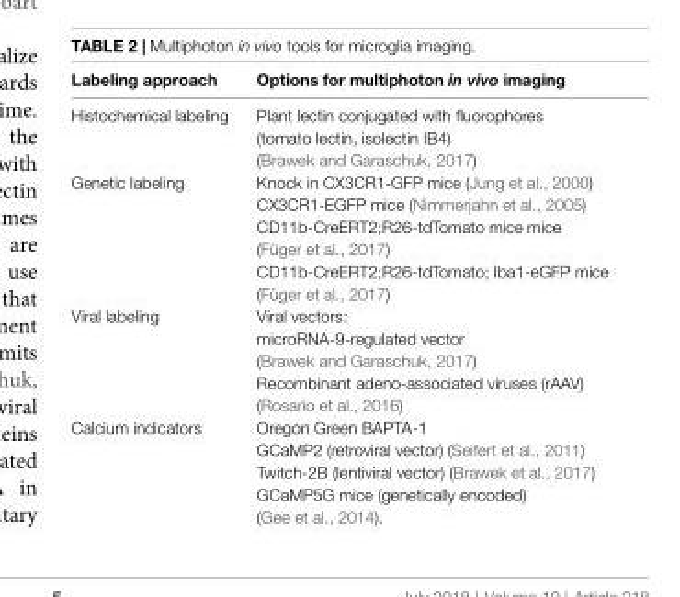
<table><thead><tr><td>Labeling approach</td><td>Options for multiphoton in vivo imaging</td></tr></thead><tbody><tr><td>Histochemical labeling</td><td>Plant lectin conjugated with fluorophores (tomato lectin, isolectin IB4) (Brawek and Garaschuk, 2017)</td></tr><tr><td>Genetic labeling</td><td>Knock in CX3CR1-GFP mice (Jung et al., 2000) CX3CR1-EGFP mice (Nimmerjahn et al., 2005) CD11b-CreERT2;R26-tdTomato mice mice (Füger et al., 2017) CD11b-CreERT2;R26-tdTomato; Iba1-eGFP mice (Füger et al., 2017)</td></tr><tr><td>Viral labeling</td><td>Viral vectors: microRNA-9-regulated vector (Brawek and Garaschuk, 2017) Recombinant adeno-associated viruses (rAAV) (Rosario et al., 2016)</td></tr><tr><td>Calcium indicators</td><td>Oregon Green BAPTA-1 GCaMP2 (retroviral vector) (Seifert et al., 2011) Twitch-2B (lentiviral vector) (Brawek et al., 2017) GCaMP5G mice (genetically encoded) (Gee et al., 2014).</td></tr></tbody></table>